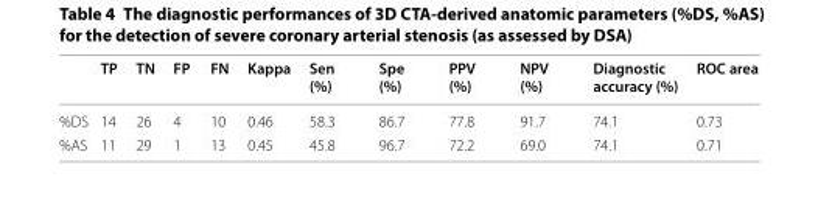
<table><thead><tr><td></td><td>TP</td><td>TN</td><td>FP</td><td>FN</td><td>Kappa</td><td>Sen (%)</td><td>Spe (%)</td><td>PPV (%)</td><td>NPV (%)</td><td>Diagnostic accuracy (%)</td><td>ROC area</td></tr></thead><tbody><tr><td>%DS</td><td>14</td><td>26</td><td>4</td><td>10</td><td>0.46</td><td>58.3</td><td>86.7</td><td>77.8</td><td>91.7</td><td>74.1</td><td>0.73</td></tr><tr><td>%AS</td><td>11</td><td>29</td><td>1</td><td>13</td><td>0.45</td><td>45.8</td><td>96.7</td><td>72.2</td><td>69.0</td><td>74.1</td><td>0.71</td></tr></tbody></table>